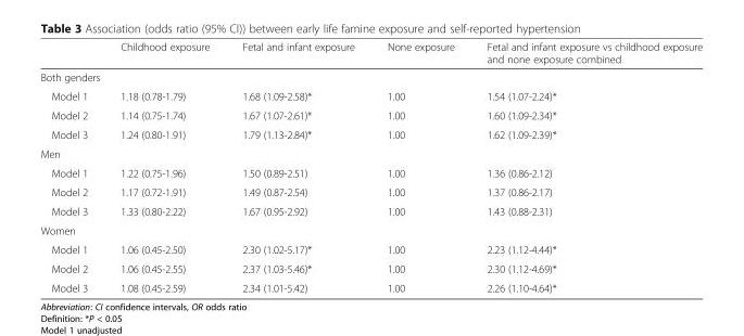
<table><thead><tr><td></td><td>Childhood exposure</td><td>Fetal and infant exposure</td><td>None exposure</td><td>Fetal and infant exposure vs childhood exposure and none exposure combined</td></tr></thead><tbody><tr><td colspan="5">Both genders</td></tr><tr><td>Model 1</td><td>1.18 (0.78-1.79)</td><td>1.68 (1.09-2.58)*</td><td>1.00</td><td>1.54 (1.07-2.24)*</td></tr><tr><td>Model 2</td><td>1.14 (0.75-1.74)</td><td>1.67 (1.07-2.61)*</td><td>1.00</td><td>1.60 (1.09-2.34)*</td></tr><tr><td>Model 3</td><td>1.24 (0.80-1.91)</td><td>1.79 (1.13-2.84)*</td><td>1.00</td><td>1.62 (1.09-2.39)*</td></tr><tr><td colspan="5">Men</td></tr><tr><td>Model 1</td><td>1.22 (0.75-1.96)</td><td>1.50 (0.89-2.51)</td><td>1.00</td><td>1.36 (0.86-2.12)</td></tr><tr><td>Model 2</td><td>1.17 (0.72-1.91)</td><td>1.49 (0.87-2.54)</td><td>1.00</td><td>1.37 (0.86-2.17)</td></tr><tr><td>Model 3</td><td>1.33 (0.80-2.22)</td><td>1.67 (0.95-2.92)</td><td>1.00</td><td>1.43 (0.88-2.31)</td></tr><tr><td colspan="5">Women</td></tr><tr><td>Model 1</td><td>1.06 (0.45-2.50)</td><td>2.30 (1.02-5.17)*</td><td>1.00</td><td>2.23 (1.12-4.44)*</td></tr><tr><td>Model 2</td><td>1.06 (0.45-2.55)</td><td>2.37 (1.03-5.46)*</td><td>1.00</td><td>2.30 (1.12-4.69)*</td></tr><tr><td>Model 3</td><td>1.08 (0.45-2.59)</td><td>2.34 (1.01-5.42)</td><td>1.00</td><td>2.26 (1.10-4.64)*</td></tr></tbody></table>